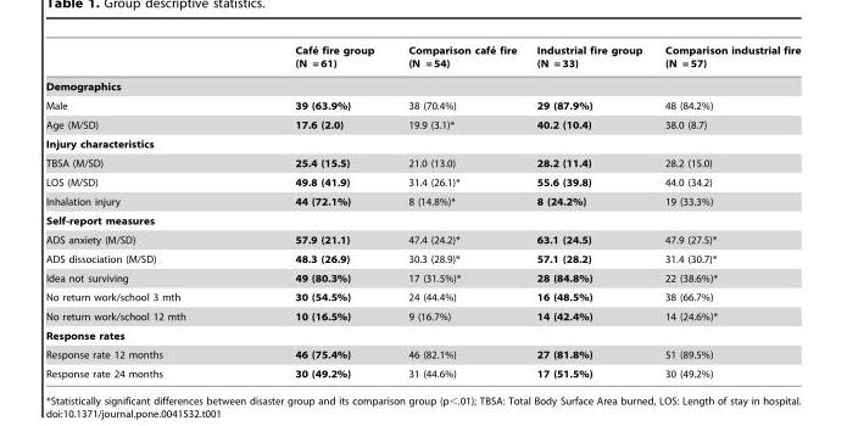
<table><thead><tr><td></td><td>Cafe´ fire group (N = 61)</td><td>Comparison cafe´ fire (N = 54)</td><td>Industrial fire group (N = 33)</td><td>Comparison industrial fire (N = 57)</td></tr></thead><tbody><tr><td colspan="5">Demographics</td></tr><tr><td>Male</td><td>39 (63.9%)</td><td>38 (70.4%)</td><td>29 (87.9%)</td><td>48 (84.2%)</td></tr><tr><td>Age (M/SD)</td><td>17.6 (2.0)</td><td>19.9 (3.1)*</td><td>40.2 (10.4)</td><td>38.0 (8.7)</td></tr><tr><td colspan="5">Injury characteristics</td></tr><tr><td>TBSA (M/SD)</td><td>25.4 (15.5)</td><td>21.0 (13.0)</td><td>28.2 (11.4)</td><td>28.2 (15.0)</td></tr><tr><td>LOS (M/SD)</td><td>49.8 (41.9)</td><td>31.4 (26.1)*</td><td>55.6 (39.8)</td><td>44.0 (34.2)</td></tr><tr><td>Inhalation injury</td><td>44 (72.1%)</td><td>8 (14.8%)*</td><td>8 (24.2%)</td><td>19 (33.3%)</td></tr><tr><td colspan="5">Self-report measures</td></tr><tr><td>ADS anxiety (M/SD)</td><td>57.9 (21.1)</td><td>47.4 (24.2)*</td><td>63.1 (24.5)</td><td>47.9 (27.5)*</td></tr><tr><td>ADS dissociation (M/SD)</td><td>48.3 (26.9)</td><td>30.3 (28.9)*</td><td>57.1 (28.2)</td><td>31.4 (30.7)*</td></tr><tr><td>Idea not surviving</td><td>49 (80.3%)</td><td>17 (31.5%)*</td><td>28 (84.8%)</td><td>22 (38.6%)*</td></tr><tr><td>No return work/school 3 mth</td><td>30 (54.5%)</td><td>24 (44.4%)</td><td>16 (48.5%)</td><td>38 (66.7%)</td></tr><tr><td>No return work/school 12 mth</td><td>10 (16.5%)</td><td>9 (16.7%)</td><td>14 (42.4%)</td><td>14 (24.6%)*</td></tr><tr><td colspan="5">Response rates</td></tr><tr><td>Response rate 12 months</td><td>46 (75.4%)</td><td>46 (82.1%)</td><td>27 (81.8%)</td><td>51 (89.5%)</td></tr><tr><td>Response rate 24 months</td><td>30 (49.2%)</td><td>31 (44.6%)</td><td>17 (51.5%)</td><td>30 (49.2%)</td></tr></tbody></table>